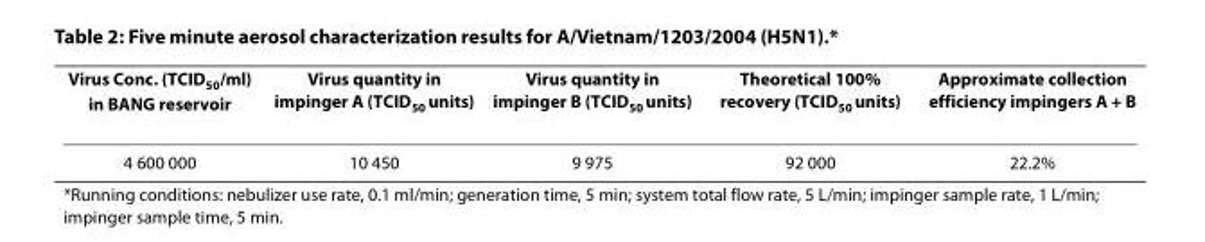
<table><thead><tr><td>Virus Conc. (TCID<sub>50</sub>/ml) in BANG reservoir</td><td>Virus quantity in impinger A (TCID<sub>50</sub> units)</td><td>Virus quantity in impinger B (TCID<sub>50</sub> units)</td><td>Theoretical 100% recovery (TCID<sub>50</sub> units)</td><td>Approximate collection efficiency impingers A + B</td></tr></thead><tbody><tr><td>4 600 000</td><td>10 450</td><td>9 975</td><td>92 000</td><td>22.2%</td></tr></tbody></table>